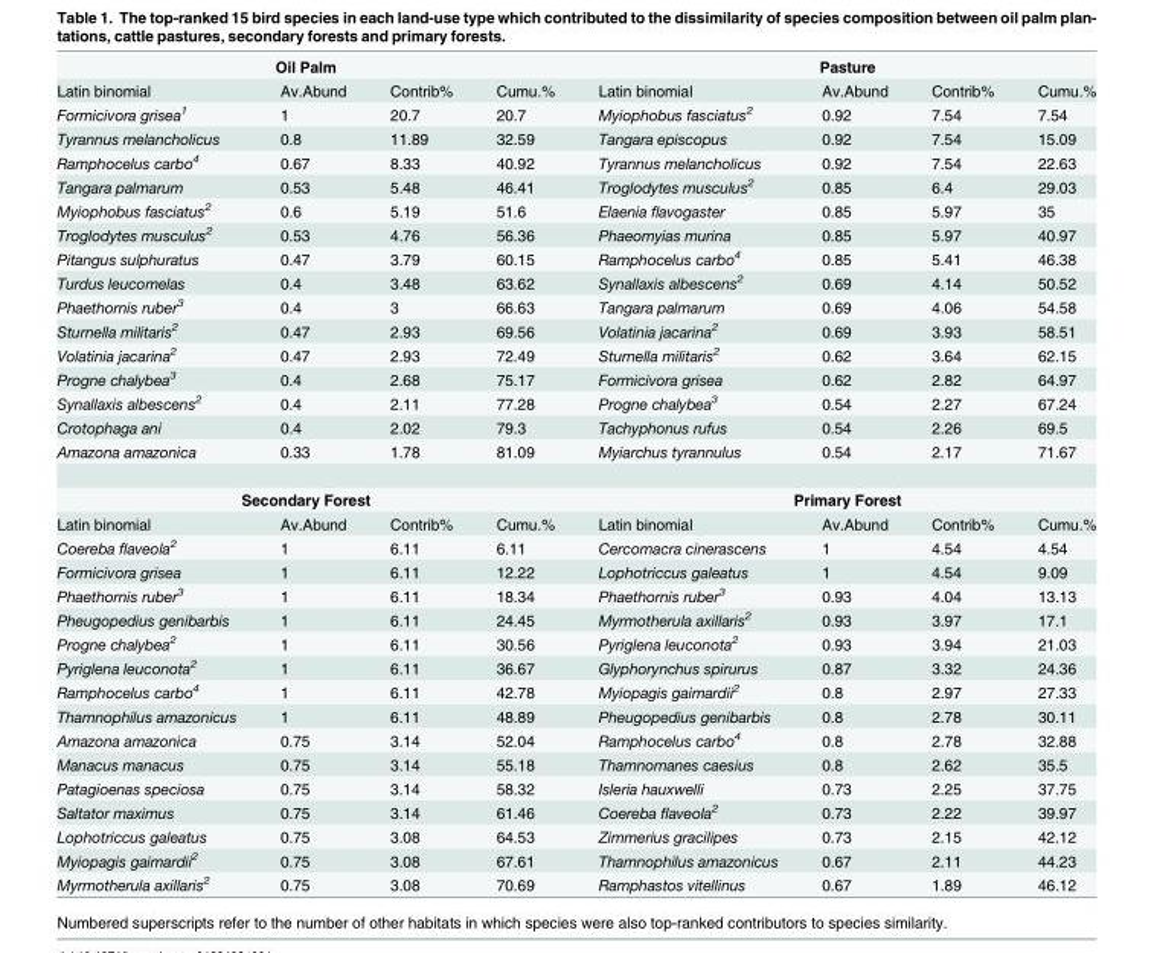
<table><tbody><tr><td colspan="4">Oil Palm</td><td colspan="4">Pasture</td></tr><tr><td>Latin binomial</td><td>Av.Abund</td><td>Contrib%</td><td>Cumu.%</td><td>Latin binomial</td><td>Av.Abund</td><td>Contrib%</td><td>Cumu.%</td></tr><tr><td>Formicivora grisea<sup>1</sup></td><td>1</td><td>20.7</td><td>20.7</td><td>Myiophobus fasciatus<sup>2</sup></td><td>0.92</td><td>7.54</td><td>7.54</td></tr><tr><td>Tyrannus melancholicus</td><td>0.8</td><td>11.89</td><td>32.59</td><td>Tangara episcopus</td><td>0.92</td><td>7.54</td><td>15.09</td></tr><tr><td>Ramphocelus carbo<sup>4</sup></td><td>0.67</td><td>8.33</td><td>40.92</td><td>Tyrannus melancholicus</td><td>0.92</td><td>7.54</td><td>22.63</td></tr><tr><td>Tangara palmarum</td><td>0.53</td><td>5.48</td><td>46.41</td><td>Troglodytes musculus<sup>2</sup></td><td>0.85</td><td>6.4</td><td>29.03</td></tr><tr><td>Myiophobus fasciatus<sup>2</sup></td><td>0.6</td><td>5.19</td><td>51.6</td><td>Elaenia flavogaster</td><td>0.85</td><td>5.97</td><td>35</td></tr><tr><td>Troglodytes musculus<sup>2</sup></td><td>0.53</td><td>4.76</td><td>56.36</td><td>Phaeomyias murina</td><td>0.85</td><td>5.97</td><td>40.97</td></tr><tr><td>Pitangus sulphuratus</td><td>0.47</td><td>3.79</td><td>60.15</td><td>Ramphocelus carbo<sup>4</sup></td><td>0.85</td><td>5.41</td><td>46.38</td></tr><tr><td>Turdus leucomelas</td><td>0.4</td><td>3.48</td><td>63.62</td><td>Synallaxis albescens<sup>2</sup></td><td>0.69</td><td>4.14</td><td>50.52</td></tr><tr><td>Phaethornis ruber<sup>3</sup></td><td>0.4</td><td>3</td><td>66.63</td><td>Tangara palmarum</td><td>0.69</td><td>4.06</td><td>54.58</td></tr><tr><td>Sturnella militaris<sup>2</sup></td><td>0.47</td><td>2.93</td><td>69.56</td><td>Volatinia jacarina<sup>2</sup></td><td>0.69</td><td>3.93</td><td>58.51</td></tr><tr><td>Volatinia jacarina<sup>2</sup></td><td>0.47</td><td>2.93</td><td>72.49</td><td>Sturnella militaris<sup>2</sup></td><td>0.62</td><td>3.64</td><td>62.15</td></tr><tr><td>Progne chalybea<sup>3</sup></td><td>0.4</td><td>2.68</td><td>75.17</td><td>Formicivora grisea</td><td>0.62</td><td>2.82</td><td>64.97</td></tr><tr><td>Synallaxis albescens<sup>2</sup></td><td>0.4</td><td>2.11</td><td>77.28</td><td>Progne chalybea<sup>3</sup></td><td>0.54</td><td>2.27</td><td>67.24</td></tr><tr><td>Crotophaga ani</td><td>0.4</td><td>2.02</td><td>79.3</td><td>Tachyphonus rufus</td><td>0.54</td><td>2.26</td><td>69.5</td></tr><tr><td>Amazona amazonica</td><td>0.33</td><td>1.78</td><td>81.09</td><td>Myiarchus tyrannulus</td><td>0.54</td><td>2.17</td><td>71.67</td></tr><tr><td colspan="4">Secondary Forest</td><td colspan="4">Primary Forest</td></tr><tr><td>Latin binomial</td><td>Av.Abund</td><td>Contrib%</td><td>Cumu.%</td><td>Latin binomial</td><td>Av.Abund</td><td>Contrib%</td><td>Cumu.%</td></tr><tr><td>Coereba flaveola<sup>2</sup></td><td>1</td><td>6.11</td><td>6.11</td><td>Cercomacra cinerascens</td><td>1</td><td>4.54</td><td>4.54</td></tr><tr><td>Formicivora grisea</td><td>1</td><td>6.11</td><td>12.22</td><td>Lophotriccus galeatus</td><td>1</td><td>4.54</td><td>9.09</td></tr><tr><td>Phaethornis ruber<sup>3</sup></td><td>1</td><td>6.11</td><td>18.34</td><td>Phaethornis ruber<sup>3</sup></td><td>0.93</td><td>4.04</td><td>13.13</td></tr><tr><td>Pheugopedius genibarbis</td><td>1</td><td>6.11</td><td>24.45</td><td>Myrmotherula axillaris<sup>2</sup></td><td>0.93</td><td>3.97</td><td>17.1</td></tr><tr><td>Progne chalybea<sup>2</sup></td><td>1</td><td>6.11</td><td>30.56</td><td>Pyriglena leuconota<sup>2</sup></td><td>0.93</td><td>3.94</td><td>21.03</td></tr><tr><td>Pyriglena leuconota<sup>2</sup></td><td>1</td><td>6.11</td><td>36.67</td><td>Glyphorynchus spirurus</td><td>0.87</td><td>3.32</td><td>24.36</td></tr><tr><td>Ramphocelus carbo<sup>4</sup></td><td>1</td><td>6.11</td><td>42.78</td><td>Myiopagis gaimardii<sup>2</sup></td><td>0.8</td><td>2.97</td><td>27.33</td></tr><tr><td>Thamnophilus amazonicus</td><td>1</td><td>6.11</td><td>48.89</td><td>Pheugopedius genibarbis</td><td>0.8</td><td>2.78</td><td>30.11</td></tr><tr><td>Amazona amazonica</td><td>0.75</td><td>3.14</td><td>52.04</td><td>Ramphocelus carbo<sup>4</sup></td><td>0.8</td><td>2.78</td><td>32.88</td></tr><tr><td>Manacus manacus</td><td>0.75</td><td>3.14</td><td>55.18</td><td>Thamnomanes caesius</td><td>0.8</td><td>2.62</td><td>35.5</td></tr><tr><td>Patagioenas speciosa</td><td>0.75</td><td>3.14</td><td>58.32</td><td>Isleria hauxwelli</td><td>0.73</td><td>2.25</td><td>37.75</td></tr><tr><td>Saltator maximus</td><td>0.75</td><td>3.14</td><td>61.46</td><td>Coereba flaveola<sup>2</sup></td><td>0.73</td><td>2.22</td><td>39.97</td></tr><tr><td>Lophotriccus galeatus</td><td>0.75</td><td>3.08</td><td>64.53</td><td>Zimmerius gracilipes</td><td>0.73</td><td>2.15</td><td>42.12</td></tr><tr><td>Myiopagis gaimardii<sup>2</sup></td><td>0.75</td><td>3.08</td><td>67.61</td><td>Thamnophilus amazonicus</td><td>0.67</td><td>2.11</td><td>44.23</td></tr><tr><td>Myrmotherula axillaris<sup>2</sup></td><td>0.75</td><td>3.08</td><td>70.69</td><td>Ramphastos vitellinus</td><td>0.67</td><td>1.89</td><td>46.12</td></tr></tbody></table>